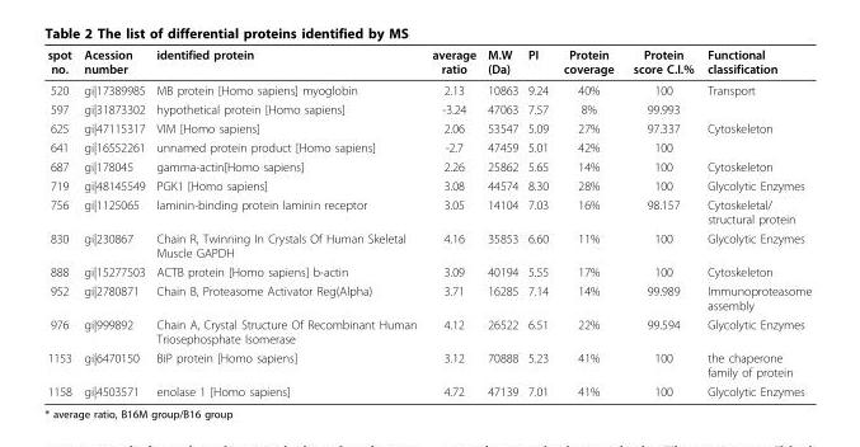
<table><thead><tr><td>spot no.</td><td>Acession number</td><td>identified protein</td><td>average ratio</td><td>M.W (Da)</td><td>PI</td><td>Protein coverage</td><td>Protein score C.I.%</td><td>Functional classification</td></tr></thead><tbody><tr><td>520</td><td>gi|17389985</td><td>MB protein [Homo sapiens] myoglobin</td><td>2.13</td><td>10863</td><td>9.24</td><td>40%</td><td>100</td><td>Transport</td></tr><tr><td>597</td><td>gi|31873302</td><td>hypothetical protein [Homo sapiens]</td><td>-3.24</td><td>47063</td><td>7.57</td><td>8%</td><td>99.993</td><td></td></tr><tr><td>625</td><td>gi|47115317</td><td>VIM [Homo sapiens]</td><td>2.06</td><td>53547</td><td>5.09</td><td>27%</td><td>97.337</td><td>Cytoskeleton</td></tr><tr><td>641</td><td>gi|16552261</td><td>unnamed protein product [Homo sapiens]</td><td>-2.7</td><td>47459</td><td>5.01</td><td>42%</td><td>100</td><td></td></tr><tr><td>687</td><td>gi|178045</td><td>gamma-actin[Homo sapiens]</td><td>2.26</td><td>25862</td><td>5.65</td><td>14%</td><td>100</td><td>Cytoskeleton</td></tr><tr><td>719</td><td>gi|48145549</td><td>PGK1 [Homo sapiens]</td><td>3.08</td><td>44574</td><td>8.30</td><td>28%</td><td>100</td><td>Glycolytic Enzymes</td></tr><tr><td>756</td><td>gi|1125065</td><td>laminin-binding protein laminin receptor</td><td>3.05</td><td>14104</td><td>7.03</td><td>16%</td><td>98.157</td><td>Cytoskeletal/ structural protein</td></tr><tr><td>830</td><td>gi|230867</td><td>Chain R, Twinning In Crystals Of Human Skeletal Muscle GAPDH</td><td>4.16</td><td>35853</td><td>6.60</td><td>11%</td><td>100</td><td>Glycolytic Enzymes</td></tr><tr><td>888</td><td>gi|15277503</td><td>ACTB protein [Homo sapiens] b-actin</td><td>3.09</td><td>40194</td><td>5.55</td><td>17%</td><td>100</td><td>Cytoskeleton</td></tr><tr><td>952</td><td>gi|2780871</td><td>Chain B, Proteasome Activator Reg(Alpha)</td><td>3.71</td><td>16285</td><td>7.14</td><td>14%</td><td>99.989</td><td>Immunoproteasome assembly</td></tr><tr><td>976</td><td>gi|999892</td><td>Chain A, Crystal Structure Of Recombinant Human Triosephosphate Isomerase</td><td>4.12</td><td>26522</td><td>6.51</td><td>22%</td><td>99.594</td><td>Glycolytic Enzymes</td></tr><tr><td>1153</td><td>gi|6470150</td><td>BiP protein [Homo sapiens]</td><td>3.12</td><td>70888</td><td>5.23</td><td>41%</td><td>100</td><td>the chaperone family of protein</td></tr><tr><td>1158</td><td>gi|4503571</td><td>enolase 1 [Homo sapiens]</td><td>4.72</td><td>47139</td><td>7.01</td><td>41%</td><td>100</td><td>Glycolytic Enzymes</td></tr></tbody></table>